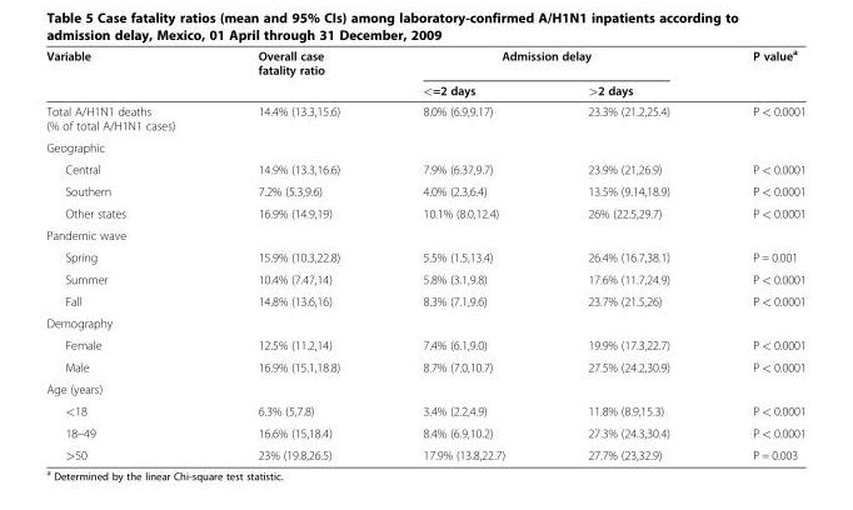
<table><thead><tr><td rowspan="2">Variable</td><td rowspan="2">Overall case fatality ratio</td><td colspan="2">Admission delay</td><td rowspan="2">P value<sup>a</sup></td></tr><tr><td>&lt;=2 days</td><td>&gt;2 days</td></tr></thead><tbody><tr><td>Total A/H1N1 deaths (% of total A/H1N1 cases)</td><td>14.4% (13.3,15.6)</td><td>8.0% (6.9,9.17)</td><td>23.3% (21.2,25.4)</td><td>P &lt; 0.0001</td></tr><tr><td colspan="5">Geographic</td></tr><tr><td>Central</td><td>14.9% (13.3,16.6)</td><td>7.9% (6.37,9.7)</td><td>23.9% (21,26.9)</td><td>P &lt; 0.0001</td></tr><tr><td>Southern</td><td>7.2% (5.3,9.6)</td><td>4.0% (2.3,6.4)</td><td>13.5% (9.14,18.9)</td><td>P &lt; 0.0001</td></tr><tr><td>Other states</td><td>16.9% (14.9,19)</td><td>10.1% (8.0,12.4)</td><td>26% (22.5,29.7)</td><td>P &lt; 0.0001</td></tr><tr><td colspan="5">Pandemic wave</td></tr><tr><td>Spring</td><td>15.9% (10.3,22.8)</td><td>5.5% (1.5,13.4)</td><td>26.4% (16.7,38.1)</td><td>P = 0.001</td></tr><tr><td>Summer</td><td>10.4% (7.47,14)</td><td>5.8% (3.1,9.8)</td><td>17.6% (11.7,24.9)</td><td>P &lt; 0.0001</td></tr><tr><td>Fall</td><td>14.8% (13.6,16)</td><td>8.3% (7.1,9.6)</td><td>23.7% (21.5,26)</td><td>P &lt; 0.0001</td></tr><tr><td colspan="5">Demography</td></tr><tr><td>Female</td><td>12.5% (11.2,14)</td><td>7.4% (6.1,9.0)</td><td>19.9% (17.3,22.7)</td><td>P &lt; 0.0001</td></tr><tr><td>Male</td><td>16.9% (15.1,18.8)</td><td>8.7% (7.0,10.7)</td><td>27.5% (24.2,30.9)</td><td>P &lt; 0.0001</td></tr><tr><td colspan="5">Age (years)</td></tr><tr><td>&lt;18</td><td>6.3% (5,7.8)</td><td>3.4% (2.2,4.9)</td><td>11.8% (8.9,15.3)</td><td>P &lt; 0.0001</td></tr><tr><td>18–49</td><td>16.6% (15,18.4)</td><td>8.4% (6.9,10.2)</td><td>27.3% (24.3,30.4)</td><td>P &lt; 0.0001</td></tr><tr><td>&gt;50</td><td>23% (19.8,26.5)</td><td>17.9% (13.8,22.7)</td><td>27.7% (23,32.9)</td><td>P = 0.003</td></tr></tbody></table>